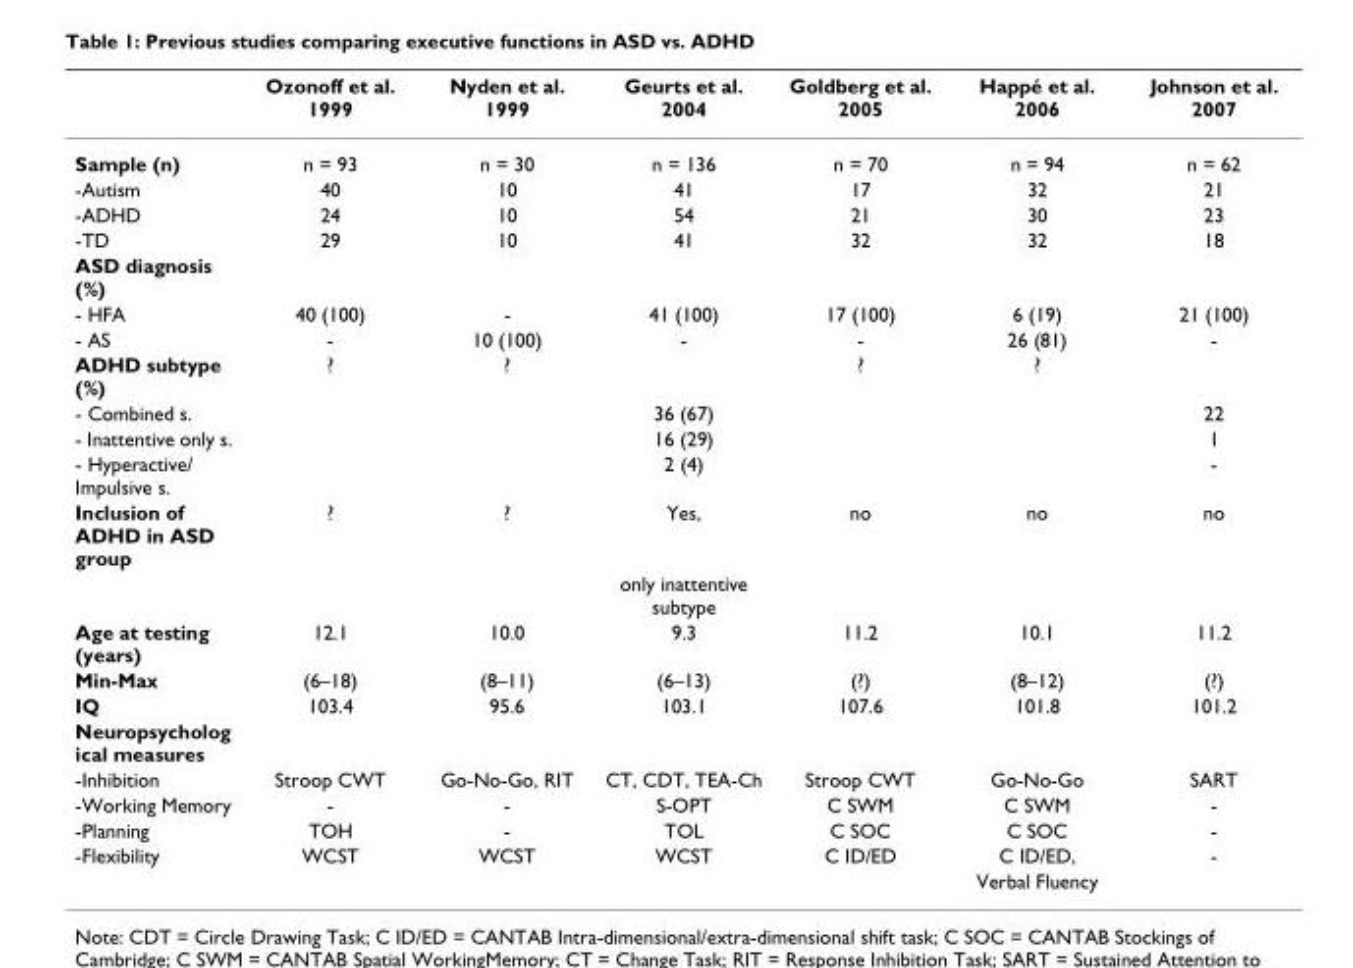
<table><thead><tr><td></td><td>Ozonoff et al. 1999</td><td>Nyden et al. 1999</td><td>Geurts et al. 2004</td><td>Goldberg et al. 2005</td><td>Happé et al. 2006</td><td>Johnson et al. 2007</td></tr></thead><tbody><tr><td>Sample (n)</td><td>n = 93</td><td>n = 30</td><td>n = 136</td><td>n = 70</td><td>n = 94</td><td>n = 62</td></tr><tr><td>-Autism</td><td>40</td><td>10</td><td>41</td><td>17</td><td>32</td><td>21</td></tr><tr><td>-ADHD</td><td>24</td><td>10</td><td>54</td><td>21</td><td>30</td><td>23</td></tr><tr><td>-TD</td><td>29</td><td>10</td><td>41</td><td>32</td><td>32</td><td>18</td></tr><tr><td colspan="7">ASD diagnosis (%)</td></tr><tr><td>- HFA</td><td>40 (100)</td><td>-</td><td>41 (100)</td><td>17 (100)</td><td>6 (19)</td><td>21 (100)</td></tr><tr><td>- AS</td><td>-</td><td>10 (100)</td><td>-</td><td>-</td><td>26 (81)</td><td>-</td></tr><tr><td>ADHD subtype (%)</td><td>?</td><td>?</td><td></td><td>?</td><td>?</td><td></td></tr><tr><td>- Combined s.</td><td></td><td></td><td>36 (67)</td><td></td><td></td><td>22</td></tr><tr><td>- Inattentive only s.</td><td></td><td></td><td>16 (29)</td><td></td><td></td><td>1</td></tr><tr><td>- Hyperactive/ Impulsive s.</td><td></td><td></td><td>2 (4)</td><td></td><td></td><td>-</td></tr><tr><td rowspan="2">Inclusion of ADHD in ASD group</td><td>?</td><td>?</td><td>Yes,</td><td>no</td><td>no</td><td>no</td></tr><tr><td></td><td></td><td>only inattentive subtype</td><td></td><td></td><td></td></tr><tr><td>Age at testing (years)</td><td>12.1</td><td>10.0</td><td>9.3</td><td>11.2</td><td>10.1</td><td>11.2</td></tr><tr><td>Min-Max</td><td>(6–18)</td><td>(8–11)</td><td>(6–13)</td><td>(?)</td><td>(8–12)</td><td>(?)</td></tr><tr><td>IQ</td><td>103.4</td><td>95.6</td><td>103.1</td><td>107.6</td><td>101.8</td><td>101.2</td></tr><tr><td colspan="7">Neuropsycholog ical measures</td></tr><tr><td>-Inhibition</td><td>Stroop CWT</td><td>Go-No-Go, RIT</td><td>CT, CDT, TEA-Ch</td><td>Stroop CWT</td><td>Go-No-Go</td><td>SART</td></tr><tr><td>-Working Memory</td><td>-</td><td>-</td><td>S-OPT</td><td>C SWM</td><td>C SWM</td><td>-</td></tr><tr><td>-Planning</td><td>TOH</td><td>-</td><td>TOL</td><td>C SOC</td><td>C SOC</td><td>-</td></tr><tr><td rowspan="2">-Flexibility</td><td>WCST</td><td>WCST</td><td>WCST</td><td>C ID/ED</td><td>C ID/ED,</td><td>-</td></tr><tr><td></td><td></td><td></td><td></td><td>Verbal Fluency</td><td></td></tr></tbody></table>